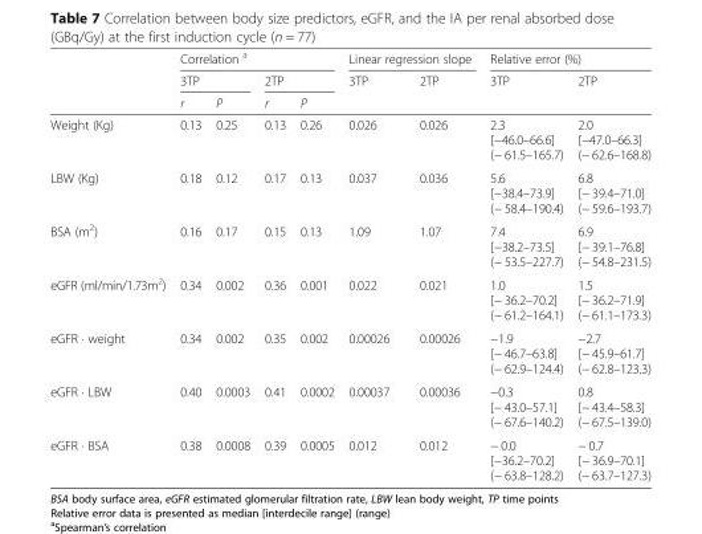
<table><thead><tr><td rowspan="3"></td><td colspan="4">Correlation <sup>a</sup></td><td colspan="2">Linear regression slope</td><td colspan="2">Relative error (%)</td></tr><tr><td colspan="2">3TP</td><td colspan="2">2TP</td><td rowspan="2">3TP</td><td rowspan="2">2TP</td><td rowspan="2">3TP</td><td rowspan="2">2TP</td></tr><tr><td>r</td><td>P</td><td>r</td><td>P</td></tr></thead><tbody><tr><td>Weight (Kg)</td><td>0.13</td><td>0.25</td><td>0.13</td><td>0.26</td><td>0.026</td><td>0.026</td><td>2.3 [−46.0–66.6] (− 61.5–165.7)</td><td>2.0 [−47.0–66.3] (− 62.6–168.8)</td></tr><tr><td>LBW (Kg)</td><td>0.18</td><td>0.12</td><td>0.17</td><td>0.13</td><td>0.037</td><td>0.036</td><td>5.6 [−38.4–73.9] (− 58.4–190.4)</td><td>6.8 [− 39.4–71.0] (− 59.6–193.7)</td></tr><tr><td>BSA (m<sup>2</sup>)</td><td>0.16</td><td>0.17</td><td>0.15</td><td>0.13</td><td>1.09</td><td>1.07</td><td>7.4 [−38.2–73.5] (− 53.5–227.7)</td><td>6.9 [− 39.1–76.8] (− 54.8–231.5)</td></tr><tr><td>eGFR (ml/min/1.73m<sup>2</sup>)</td><td>0.34</td><td>0.002</td><td>0.36</td><td>0.001</td><td>0.022</td><td>0.021</td><td>1.0 [− 36.2–70.2] (− 61.2–164.1)</td><td>1.5 [− 36.2–71.9] (− 61.1–173.3)</td></tr><tr><td>eGFR · weight</td><td>0.34</td><td>0.002</td><td>0.35</td><td>0.002</td><td>0.00026</td><td>0.00026</td><td>−1.9 [− 46.7–63.8] (− 62.9–124.4)</td><td>−2.7 [− 45.9–61.7] (− 62.8–123.3)</td></tr><tr><td>eGFR · LBW</td><td>0.40</td><td>0.0003</td><td>0.41</td><td>0.0002</td><td>0.00037</td><td>0.00036</td><td>−0.3 [− 43.0–57.1] (− 67.6–140.2)</td><td>0.8 [− 43.4–58.3] (− 67.5–139.0)</td></tr><tr><td>eGFR · BSA</td><td>0.38</td><td>0.0008</td><td>0.39</td><td>0.0005</td><td>0.012</td><td>0.012</td><td>− 0.0 [−36.2–70.2] (− 63.8–128.2)</td><td>− 0.7 [− 36.9–70.1] (− 63.7–127.3)</td></tr></tbody></table>